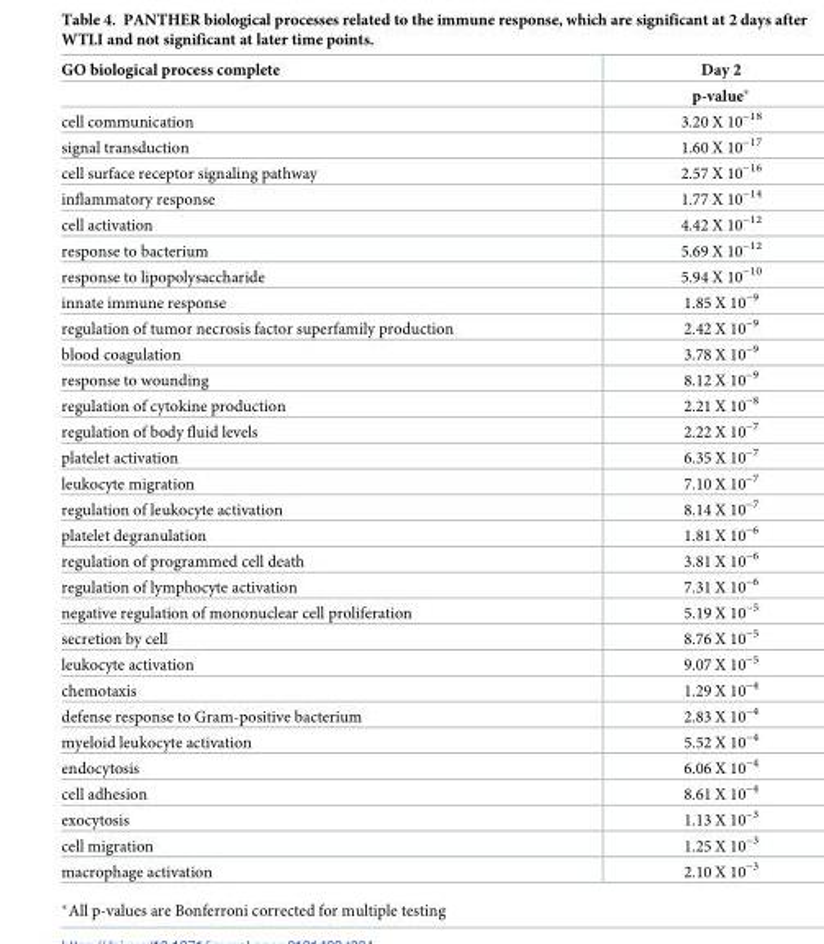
<table><thead><tr><td rowspan="2">GO biological process complete</td><td rowspan="2">Day 2 p-value*</td></tr><tr></tr></thead><tbody><tr><td>cell communication</td><td>3.20 X 10<sup>−18</sup></td></tr><tr><td>signal transduction</td><td>1.60 X 10<sup>−17</sup></td></tr><tr><td>cell surface receptor signaling pathway</td><td>2.57 X 10<sup>−16</sup></td></tr><tr><td>inflammatory response</td><td>1.77 X 10<sup>−14</sup></td></tr><tr><td>cell activation</td><td>4.42 X 10<sup>−12</sup></td></tr><tr><td>response to bacterium</td><td>5.69 X 10<sup>−12</sup></td></tr><tr><td>response to lipopolysaccharide</td><td>5.94 X 10<sup>−10</sup></td></tr><tr><td>innate immune response</td><td>1.85 X 10<sup>−9</sup></td></tr><tr><td>regulation of tumor necrosis factor superfamily production</td><td>2.42 X 10<sup>−9</sup></td></tr><tr><td>blood coagulation</td><td>3.78 X 10<sup>−9</sup></td></tr><tr><td>response to wounding</td><td>8.12 X 10<sup>−9</sup></td></tr><tr><td>regulation of cytokine production</td><td>2.21 X 10<sup>−8</sup></td></tr><tr><td>regulation of body fluid levels</td><td>2.22 X 10<sup>−7</sup></td></tr><tr><td>platelet activation</td><td>6.35 X 10<sup>−7</sup></td></tr><tr><td>leukocyte migration</td><td>7.10 X 10<sup>−7</sup></td></tr><tr><td>regulation of leukocyte activation</td><td>8.14 X 10<sup>−7</sup></td></tr><tr><td>platelet degranulation</td><td>1.81 X 10<sup>−6</sup></td></tr><tr><td>regulation of programmed cell death</td><td>3.81 X 10<sup>−6</sup></td></tr><tr><td>regulation of lymphocyte activation</td><td>7.31 X 10<sup>−6</sup></td></tr><tr><td>negative regulation of mononuclear cell proliferation</td><td>5.19 X 10<sup>−5</sup></td></tr><tr><td>secretion by cell</td><td>8.76 X 10<sup>−5</sup></td></tr><tr><td>leukocyte activation</td><td>9.07 X 10<sup>−5</sup></td></tr><tr><td>chemotaxis</td><td>1.29 X 10<sup>−4</sup></td></tr><tr><td>defense response to Gram-positive bacterium</td><td>2.83 X 10<sup>−4</sup></td></tr><tr><td>myeloid leukocyte activation</td><td>5.52 X 10<sup>−4</sup></td></tr><tr><td>endocytosis</td><td>6.06 X 10<sup>−4</sup></td></tr><tr><td>cell adhesion</td><td>8.61 X 10<sup>−4</sup></td></tr><tr><td>exocytosis</td><td>1.13 X 10<sup>−3</sup></td></tr><tr><td>cell migration</td><td>1.25 X 10<sup>−3</sup></td></tr><tr><td>macrophage activation</td><td>2.10 X 10<sup>−3</sup></td></tr></tbody></table>